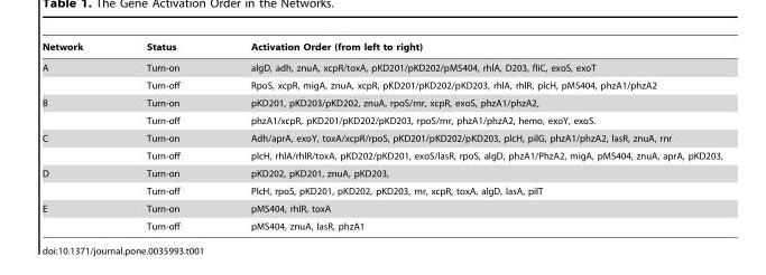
<table><thead><tr><td>Network</td><td>Status</td><td>Activation Order (from left to right)</td></tr></thead><tbody><tr><td rowspan="2">A</td><td>Turn-on</td><td>algD, adh, znuA, xcpR/toxA, pKD201/pKD202/pMS404, rhlA, D203, fliC, exoS, exoT</td></tr><tr><td>Turn-off</td><td>RpoS, xcpR, migA, znuA, xcpR, pKD201/pKD202/pKD203, rhlA, rhlR, plcH, pMS404, phzA1/phzA2</td></tr><tr><td rowspan="2">B</td><td>Turn-on</td><td>pKD201, pKD203/pKD202, znuA, rpoS/rnr, xcpR, exoS, phzA1/phzA2,</td></tr><tr><td>Turn-off</td><td>phzA1/xcpR, pKD201/pKD202/pKD203, rpoS/rnr, phzA1/phzA2, hemo, exoY, exoS.</td></tr><tr><td rowspan="2">C</td><td>Turn-on</td><td>Adh/aprA, exoY, toxA/xcpR/rpoS, pKD201/pKD202/pKD203, plcH, pilG, phzA1/phzA2, lasR, znuA, rnr</td></tr><tr><td>Turn-off</td><td>plcH, rhlA/rhlR/toxA, pKD202/pKD201, exoS/lasR, rpoS, algD, phzA1/PhzA2, migA, pMS404, znuA, aprA, pKD203,</td></tr><tr><td rowspan="2">D</td><td>Turn-on</td><td>pKD202, pKD201, znuA, pKD203,</td></tr><tr><td>Turn-off</td><td>PlcH, rpoS, pKD201, pKD202, pKD203, rnr, xcpR, toxA, algD, lasA, pilT</td></tr><tr><td rowspan="2">E</td><td>Turn-on</td><td>pMS404, rhlR, toxA</td></tr><tr><td>Turn-off</td><td>pMS404, znuA, lasR, phzA1</td></tr></tbody></table>